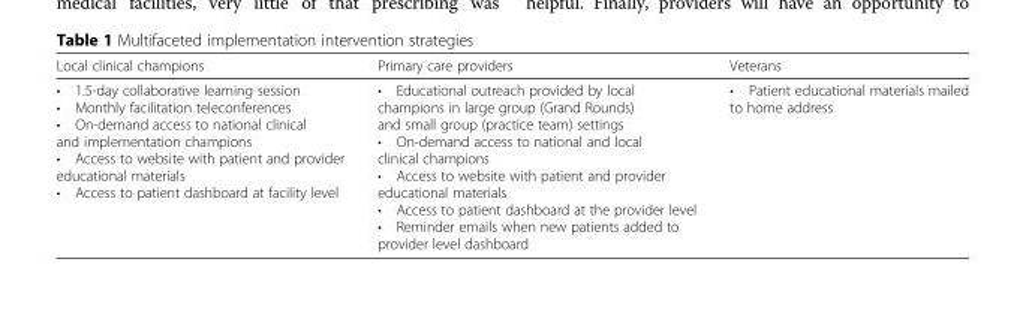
<table><thead><tr><td>Local clinical champions</td><td>Primary care providers</td><td>Veterans</td></tr></thead><tbody><tr><td>• 1.5-day collaborative learning session • Monthly facilitation teleconferences • On-demand access to national clinical and implementation champions • Access to website with patient and provider educational materials • Access to patient dashboard at facility level</td><td>• Educational outreach provided by local champions in large group (Grand Rounds) and small group (practice team) settings • On-demand access to national and local clinical champions • Access to website with patient and provider educational materials • Access to patient dashboard at the provider level • Reminder emails when new patients added to provider level dashboard</td><td>• Patient educational materials mailed to home address</td></tr></tbody></table>